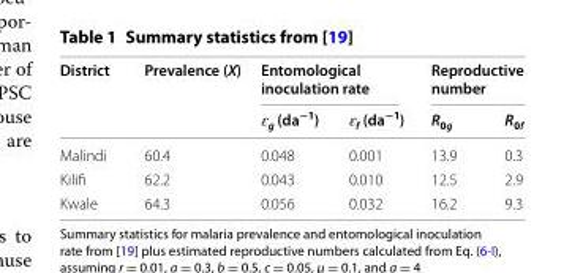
<table><thead><tr><td rowspan="2">District</td><td rowspan="2">Prevalence (X)</td><td colspan="2">Entomological inoculation rate</td><td colspan="2">Reproductive number</td></tr><tr><td>ɛ<sub>g</sub> (da<sup>−1</sup>)</td><td>ɛ<sub>f</sub> (da<sup>−1</sup>)</td><td>R<sub>0g</sub></td><td>R<sub>0f</sub></td></tr></thead><tbody><tr><td>Malindi</td><td>60.4</td><td>0.048</td><td>0.001</td><td>13.9</td><td>0.3</td></tr><tr><td>Kilifi</td><td>62.2</td><td>0.043</td><td>0.010</td><td>12.5</td><td>2.9</td></tr><tr><td>Kwale</td><td>64.3</td><td>0.056</td><td>0.032</td><td>16.2</td><td>9.3</td></tr></tbody></table>